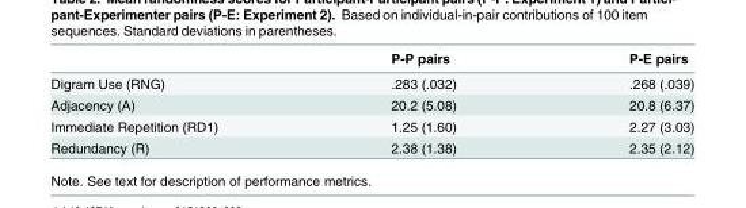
<table><thead><tr><td></td><td>P-P pairs</td><td>P-E pairs</td></tr></thead><tbody><tr><td>Digram Use (RNG)</td><td>.283 (.032)</td><td>.268 (.039)</td></tr><tr><td>Adjacency (A)</td><td>20.2 (5.08)</td><td>20.8 (6.37)</td></tr><tr><td>Immediate Repetition (RD1)</td><td>1.25 (1.60)</td><td>2.27 (3.03)</td></tr><tr><td>Redundancy (R)</td><td>2.38 (1.38)</td><td>2.35 (2.12)</td></tr></tbody></table>